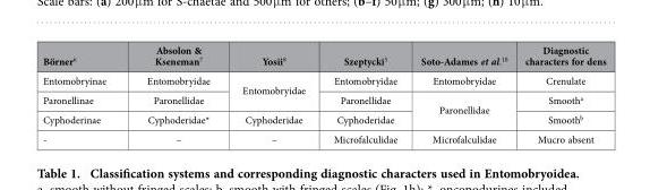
<table><thead><tr><td>Börner<sup>6</sup></td><td>Absolon &amp; Kseneman<sup>7</sup></td><td>Yosii<sup>8</sup></td><td>Szeptycki<sup>5</sup></td><td>Soto-Adames et al.<sup>10</sup></td><td>Diagnostic characters for dens</td></tr></thead><tbody><tr><td>Entomobryinae</td><td>Entomobryidae</td><td rowspan="2">Entomobryidae</td><td>Entomobryidae</td><td>Entomobryidae</td><td>Crenulate</td></tr><tr><td>Paronellinae</td><td>Paronellidae</td><td>Paronellidae</td><td rowspan="2">Paronellidae</td><td>Smooth<sup>a</sup></td></tr><tr><td>Cyphoderinae</td><td>Cyphoderidae*</td><td>Cyphoderidae</td><td>Cyphoderidae</td><td>Smooth<sup>b</sup></td></tr><tr><td>-</td><td>–</td><td>–</td><td>Microfalculidae</td><td>Microfalculidae</td><td>Mucro absent</td></tr></tbody></table>